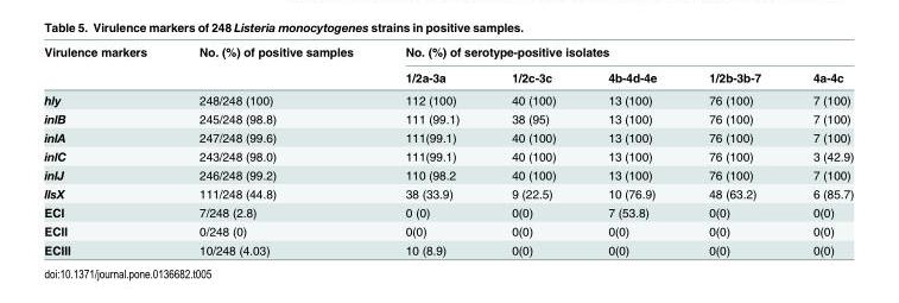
<table><thead><tr><td rowspan="2">Virulence markers</td><td rowspan="2">No. (%) of positive samples</td><td colspan="5">No. (%) of serotype-positive isolates</td></tr><tr><td>1/2a-3a</td><td>1/2c-3c</td><td>4b-4d-4e</td><td>1/2b-3b-7</td><td>4a-4c</td></tr></thead><tbody><tr><td>hly</td><td>248/248 (100)</td><td>112 (100)</td><td>40 (100)</td><td>13 (100)</td><td>76 (100)</td><td>7 (100)</td></tr><tr><td>inlB</td><td>245/248 (98.8)</td><td>111 (99.1)</td><td>38 (95)</td><td>13 (100)</td><td>76 (100)</td><td>7 (100)</td></tr><tr><td>inlA</td><td>247/248 (99.6)</td><td>111(99.1)</td><td>40 (100)</td><td>13 (100)</td><td>76 (100)</td><td>7 (100)</td></tr><tr><td>inlC</td><td>243/248 (98.0)</td><td>111(99.1)</td><td>40 (100)</td><td>13 (100)</td><td>76 (100)</td><td>3 (42.9)</td></tr><tr><td>inlJ</td><td>246/248 (99.2)</td><td>110 (98.2</td><td>40 (100)</td><td>13 (100)</td><td>76 (100)</td><td>7 (100)</td></tr><tr><td>llsX</td><td>111/248 (44.8)</td><td>38 (33.9)</td><td>9 (22.5)</td><td>10 (76.9)</td><td>48 (63.2)</td><td>6 (85.7)</td></tr><tr><td>ECI</td><td>7/248 (2.8)</td><td>0 (0)</td><td>0(0)</td><td>7 (53.8)</td><td>0(0)</td><td>0(0)</td></tr><tr><td>ECII</td><td>0/248 (0)</td><td>0(0)</td><td>0(0)</td><td>0(0)</td><td>0(0)</td><td>0(0)</td></tr><tr><td>ECIII</td><td>10/248 (4.03)</td><td>10 (8.9)</td><td>0(0)</td><td>0(0)</td><td>0(0)</td><td>0(0)</td></tr></tbody></table>